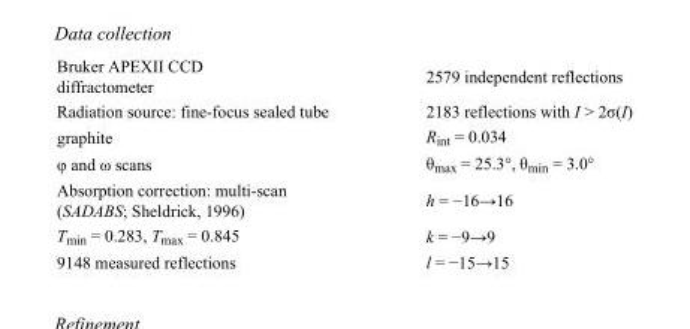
<table><tbody><tr><td>Bruker APEXII CCD diffractometer</td><td>2579 independent reflections</td></tr><tr><td>Radiation source: fine-focus sealed tube</td><td>2183 reflections with I &gt; 2σ(I)</td></tr><tr><td>graphite</td><td>R<sub>int</sub> = 0.034</td></tr><tr><td>φ and ω scans</td><td>θ<sub>max</sub> = 25.3°, θ<sub>min</sub> = 3.0°</td></tr><tr><td>Absorption correction: multi-scan (SADABS; Sheldrick, 1996)</td><td>h = −16→16</td></tr><tr><td>T<sub>min</sub> = 0.283, T<sub>max</sub> = 0.845</td><td>k = −9→9</td></tr><tr><td>9148 measured reflections</td><td>l = −15→15</td></tr></tbody></table>